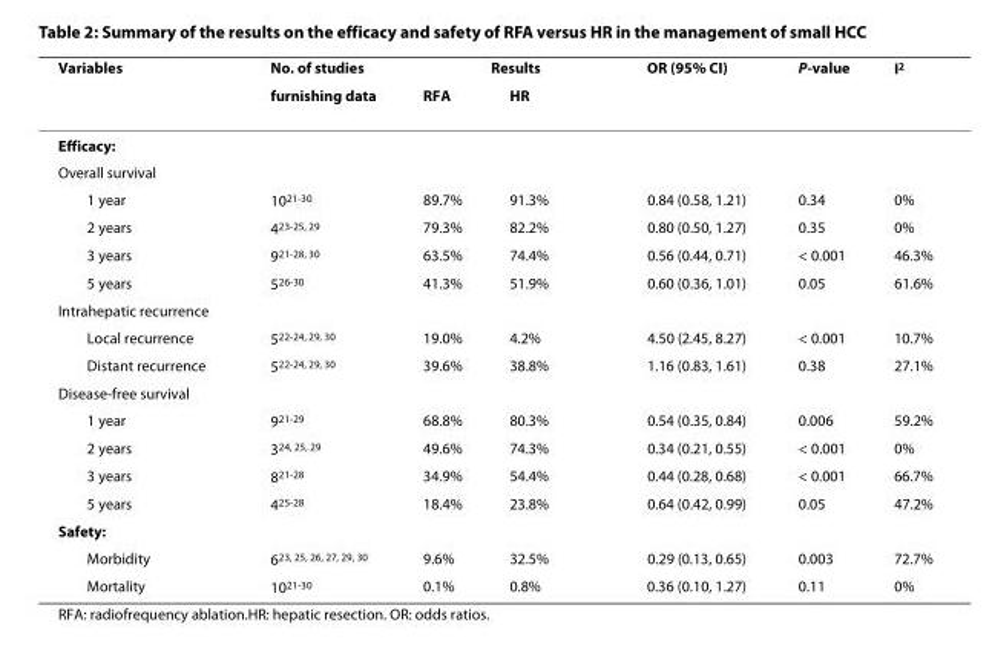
<table><thead><tr><td rowspan="2">Variables</td><td rowspan="2">No. of studies furnishing data</td><td colspan="2">Results</td><td rowspan="2">OR (95% CI)</td><td rowspan="2">P-value</td><td rowspan="2">I<sup>2</sup></td></tr><tr><td>RFA</td><td>HR</td></tr></thead><tbody><tr><td colspan="7">Efficacy:</td></tr><tr><td colspan="7">Overall survival</td></tr><tr><td>1 year</td><td>10<sup>21-30</sup></td><td>89.7%</td><td>91.3%</td><td>0.84 (0.58, 1.21)</td><td>0.34</td><td>0%</td></tr><tr><td>2 years</td><td>4<sup>23-25, 29</sup></td><td>79.3%</td><td>82.2%</td><td>0.80 (0.50, 1.27)</td><td>0.35</td><td>0%</td></tr><tr><td>3 years</td><td>9<sup>21-28, 30</sup></td><td>63.5%</td><td>74.4%</td><td>0.56 (0.44, 0.71)</td><td>&lt; 0.001</td><td>46.3%</td></tr><tr><td>5 years</td><td>5<sup>26-30</sup></td><td>41.3%</td><td>51.9%</td><td>0.60 (0.36, 1.01)</td><td>0.05</td><td>61.6%</td></tr><tr><td colspan="7">Intrahepatic recurrence</td></tr><tr><td>Local recurrence</td><td>5<sup>22-24, 29, 30</sup></td><td>19.0%</td><td>4.2%</td><td>4.50 (2.45, 8.27)</td><td>&lt; 0.001</td><td>10.7%</td></tr><tr><td>Distant recurrence</td><td>5<sup>22-24, 29, 30</sup></td><td>39.6%</td><td>38.8%</td><td>1.16 (0.83, 1.61)</td><td>0.38</td><td>27.1%</td></tr><tr><td colspan="7">Disease-free survival</td></tr><tr><td>1 year</td><td>9<sup>21-29</sup></td><td>68.8%</td><td>80.3%</td><td>0.54 (0.35, 0.84)</td><td>0.006</td><td>59.2%</td></tr><tr><td>2 years</td><td>3<sup>24, 25, 29</sup></td><td>49.6%</td><td>74.3%</td><td>0.34 (0.21, 0.55)</td><td>&lt; 0.001</td><td>0%</td></tr><tr><td>3 years</td><td>8<sup>21-28</sup></td><td>34.9%</td><td>54.4%</td><td>0.44 (0.28, 0.68)</td><td>&lt; 0.001</td><td>66.7%</td></tr><tr><td>5 years</td><td>4<sup>25-28</sup></td><td>18.4%</td><td>23.8%</td><td>0.64 (0.42, 0.99)</td><td>0.05</td><td>47.2%</td></tr><tr><td colspan="7">Safety:</td></tr><tr><td>Morbidity</td><td>6<sup>23, 25, 26, 27, 29, 30</sup></td><td>9.6%</td><td>32.5%</td><td>0.29 (0.13, 0.65)</td><td>0.003</td><td>72.7%</td></tr><tr><td>Mortality</td><td>10<sup>21-30</sup></td><td>0.1%</td><td>0.8%</td><td>0.36 (0.10, 1.27)</td><td>0.11</td><td>0%</td></tr></tbody></table>